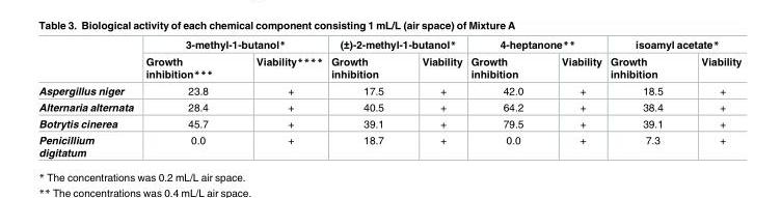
<table><thead><tr><td rowspan="2"></td><td colspan="2">3-methyl-1-butanol*</td><td colspan="2">(±)-2-methyl-1-butanol*</td><td colspan="2">4-heptanone**</td><td colspan="2">isoamyl acetate*</td></tr><tr><td>Growth inhibition***</td><td>Viability****</td><td>Growth inhibition</td><td>Viability</td><td>Growth inhibition</td><td>Viability</td><td>Growth inhibition</td><td>Viability</td></tr></thead><tbody><tr><td>Aspergillus niger</td><td>23.8</td><td>+</td><td>17.5</td><td>+</td><td>42.0</td><td>+</td><td>18.5</td><td>+</td></tr><tr><td>Alternaria alternata</td><td>28.4</td><td>+</td><td>40.5</td><td>+</td><td>64.2</td><td>+</td><td>38.4</td><td>+</td></tr><tr><td>Botrytis cinerea</td><td>45.7</td><td>+</td><td>39.1</td><td>+</td><td>79.5</td><td>+</td><td>39.1</td><td>+</td></tr><tr><td>Penicillium digitatum</td><td>0.0</td><td>+</td><td>18.7</td><td>+</td><td>0.0</td><td>+</td><td>7.3</td><td>+</td></tr></tbody></table>